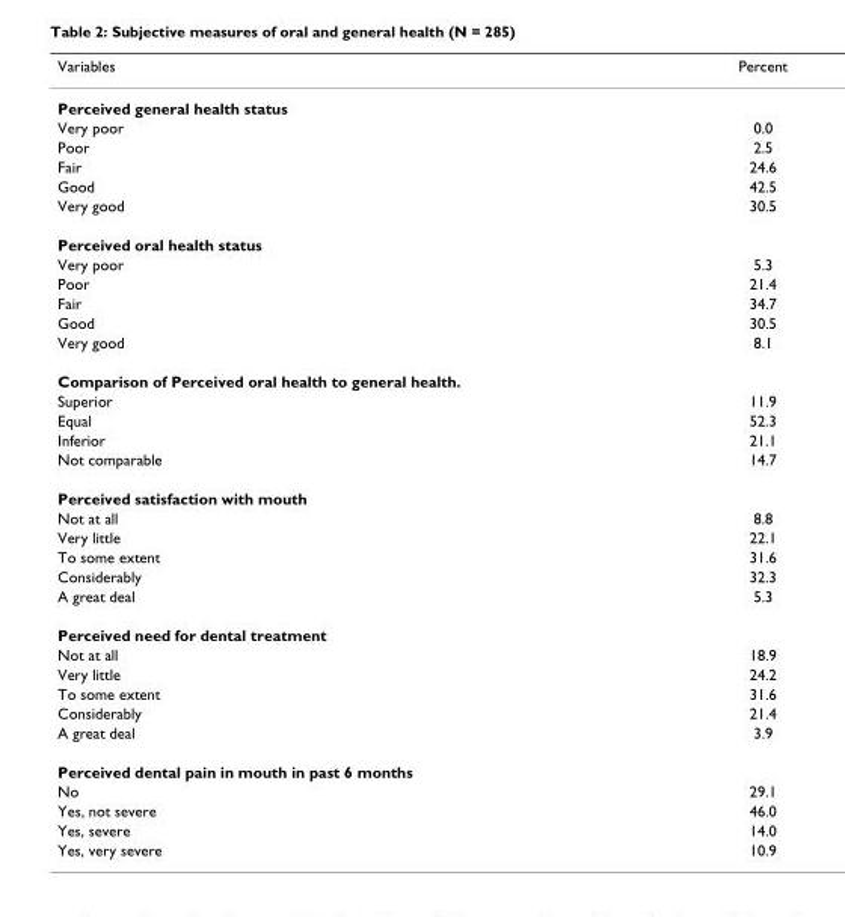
<table><thead><tr><td>Variables</td><td>Percent</td></tr></thead><tbody><tr><td colspan="2">Perceived general health status</td></tr><tr><td>Very poor</td><td>0.0</td></tr><tr><td>Poor</td><td>2.5</td></tr><tr><td>Fair</td><td>24.6</td></tr><tr><td>Good</td><td>42.5</td></tr><tr><td>Very good</td><td>30.5</td></tr><tr><td colspan="2">Perceived oral health status</td></tr><tr><td>Very poor</td><td>5.3</td></tr><tr><td>Poor</td><td>21.4</td></tr><tr><td>Fair</td><td>34.7</td></tr><tr><td>Good</td><td>30.5</td></tr><tr><td>Very good</td><td>8.1</td></tr><tr><td colspan="2">Comparison of Perceived oral health to general health.</td></tr><tr><td>Superior</td><td>11.9</td></tr><tr><td>Equal</td><td>52.3</td></tr><tr><td>Inferior</td><td>21.1</td></tr><tr><td>Not comparable</td><td>14.7</td></tr><tr><td colspan="2">Perceived satisfaction with mouth</td></tr><tr><td>Not at all</td><td>8.8</td></tr><tr><td>Very little</td><td>22.1</td></tr><tr><td>To some extent</td><td>31.6</td></tr><tr><td>Considerably</td><td>32.3</td></tr><tr><td>A great deal</td><td>5.3</td></tr><tr><td colspan="2">Perceived need for dental treatment</td></tr><tr><td>Not at all</td><td>18.9</td></tr><tr><td>Very little</td><td>24.2</td></tr><tr><td>To some extent</td><td>31.6</td></tr><tr><td>Considerably</td><td>21.4</td></tr><tr><td>A great deal</td><td>3.9</td></tr><tr><td colspan="2">Perceived dental pain in mouth in past 6 months</td></tr><tr><td>No</td><td>29.1</td></tr><tr><td>Yes, not severe</td><td>46.0</td></tr><tr><td>Yes, severe</td><td>14.0</td></tr><tr><td>Yes, very severe</td><td>10.9</td></tr></tbody></table>